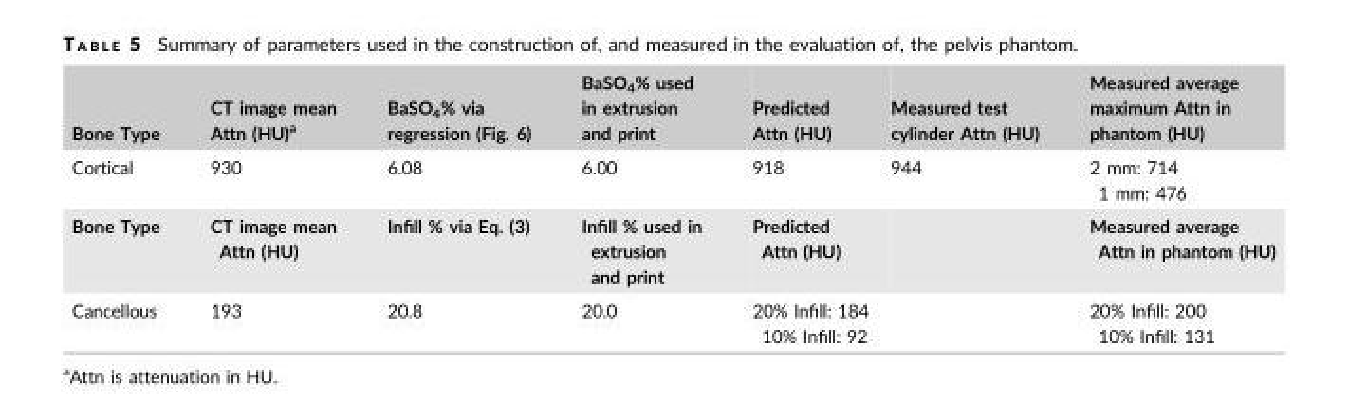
<table><thead><tr><td>Bone Type</td><td>CT image mean Attn (HU)<sup>a</sup></td><td>BaSO<sub>4</sub>% via regression (Fig. 6)</td><td>BaSO<sub>4</sub>% used in extrusion and print</td><td>Predicted Attn (HU)</td><td>Measured test cylinder Attn (HU)</td><td>Measured average maximum Attn in phantom (HU)</td></tr></thead><tbody><tr><td>Cortical</td><td>930</td><td>6.08</td><td>6.00</td><td>918</td><td>944</td><td>2 mm: 714 1 mm: 476</td></tr><tr><td>Bone Type</td><td>CT image mean Attn (HU)</td><td>Infill % via Eq. (3)</td><td>Infill % used in extrusion and print</td><td>Predicted Attn (HU)</td><td></td><td>Measured average Attn in phantom (HU)</td></tr><tr><td>Cancellous</td><td>193</td><td>20.8</td><td>20.0</td><td colspan="2">20% Infill: 184 10% Infill: 92</td><td>20% Infill: 200 10% Infill: 131</td></tr></tbody></table>